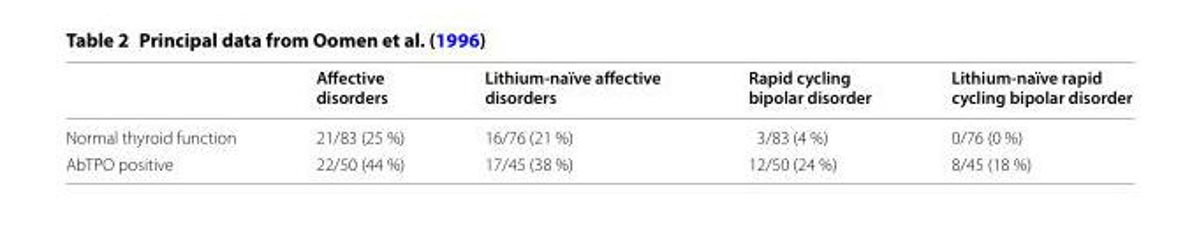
<table><thead><tr><td></td><td>Affective disorders</td><td>Lithium-naïve affective disorders</td><td>Rapid cycling bipolar disorder</td><td>Lithium-naïve rapid cycling bipolar disorder</td></tr></thead><tbody><tr><td>Normal thyroid function</td><td>21/83 (25 %)</td><td>16/76 (21 %)</td><td>3/83 (4 %)</td><td>0/76 (0 %)</td></tr><tr><td>AbTPO positive</td><td>22/50 (44 %)</td><td>17/45 (38 %)</td><td>12/50 (24 %)</td><td>8/45 (18 %)</td></tr></tbody></table>